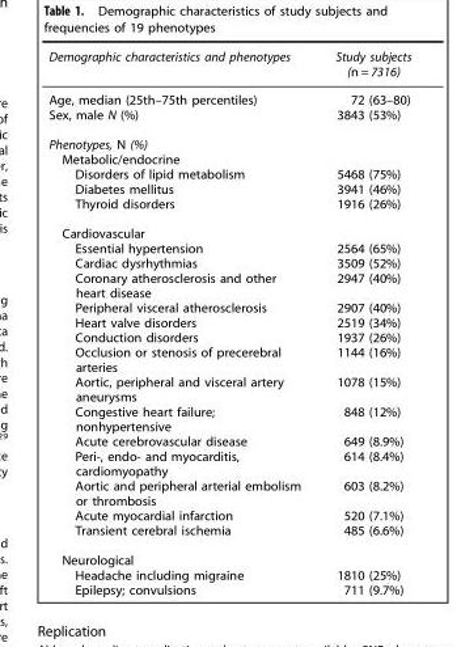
<table><thead><tr><td>Demographic characteristics and phenotypes</td><td>Study subjects (n = 7316)</td></tr></thead><tbody><tr><td>Age, median (25th–75th percentiles)</td><td>72 (63–80)</td></tr><tr><td>Sex, male N (%)</td><td>3843 (53%)</td></tr><tr><td colspan="2">Phenotypes, N (%)</td></tr><tr><td colspan="2">Metabolic/endocrine</td></tr><tr><td>Disorders of lipid metabolism</td><td>5468 (75%)</td></tr><tr><td>Diabetes mellitus</td><td>3941 (46%)</td></tr><tr><td>Thyroid disorders</td><td>1916 (26%)</td></tr><tr><td colspan="2">Cardiovascular</td></tr><tr><td>Essential hypertension</td><td>2564 (65%)</td></tr><tr><td>Cardiac dysrhythmias</td><td>3509 (52%)</td></tr><tr><td>Coronary atherosclerosis and other heart disease</td><td>2947 (40%)</td></tr><tr><td>Peripheral visceral atherosclerosis</td><td>2907 (40%)</td></tr><tr><td>Heart valve disorders</td><td>2519 (34%)</td></tr><tr><td>Conduction disorders</td><td>1937 (26%)</td></tr><tr><td>Occlusion or stenosis of precerebral arteries</td><td>1144 (16%)</td></tr><tr><td>Aortic, peripheral and visceral artery aneurysms</td><td>1078 (15%)</td></tr><tr><td>Congestive heart failure; nonhypertensive</td><td>848 (12%)</td></tr><tr><td>Acute cerebrovascular disease</td><td>649 (8.9%)</td></tr><tr><td>Peri-, endo- and myocarditis, cardiomyopathy</td><td>614 (8.4%)</td></tr><tr><td>Aortic and peripheral arterial embolism or thrombosis</td><td>603 (8.2%)</td></tr><tr><td>Acute myocardial infarction</td><td>520 (7.1%)</td></tr><tr><td>Transient cerebral ischemia</td><td>485 (6.6%)</td></tr><tr><td colspan="2">Neurological</td></tr><tr><td>Headache including migraine</td><td>1810 (25%)</td></tr><tr><td>Epilepsy; convulsions</td><td>711 (9.7%)</td></tr></tbody></table>